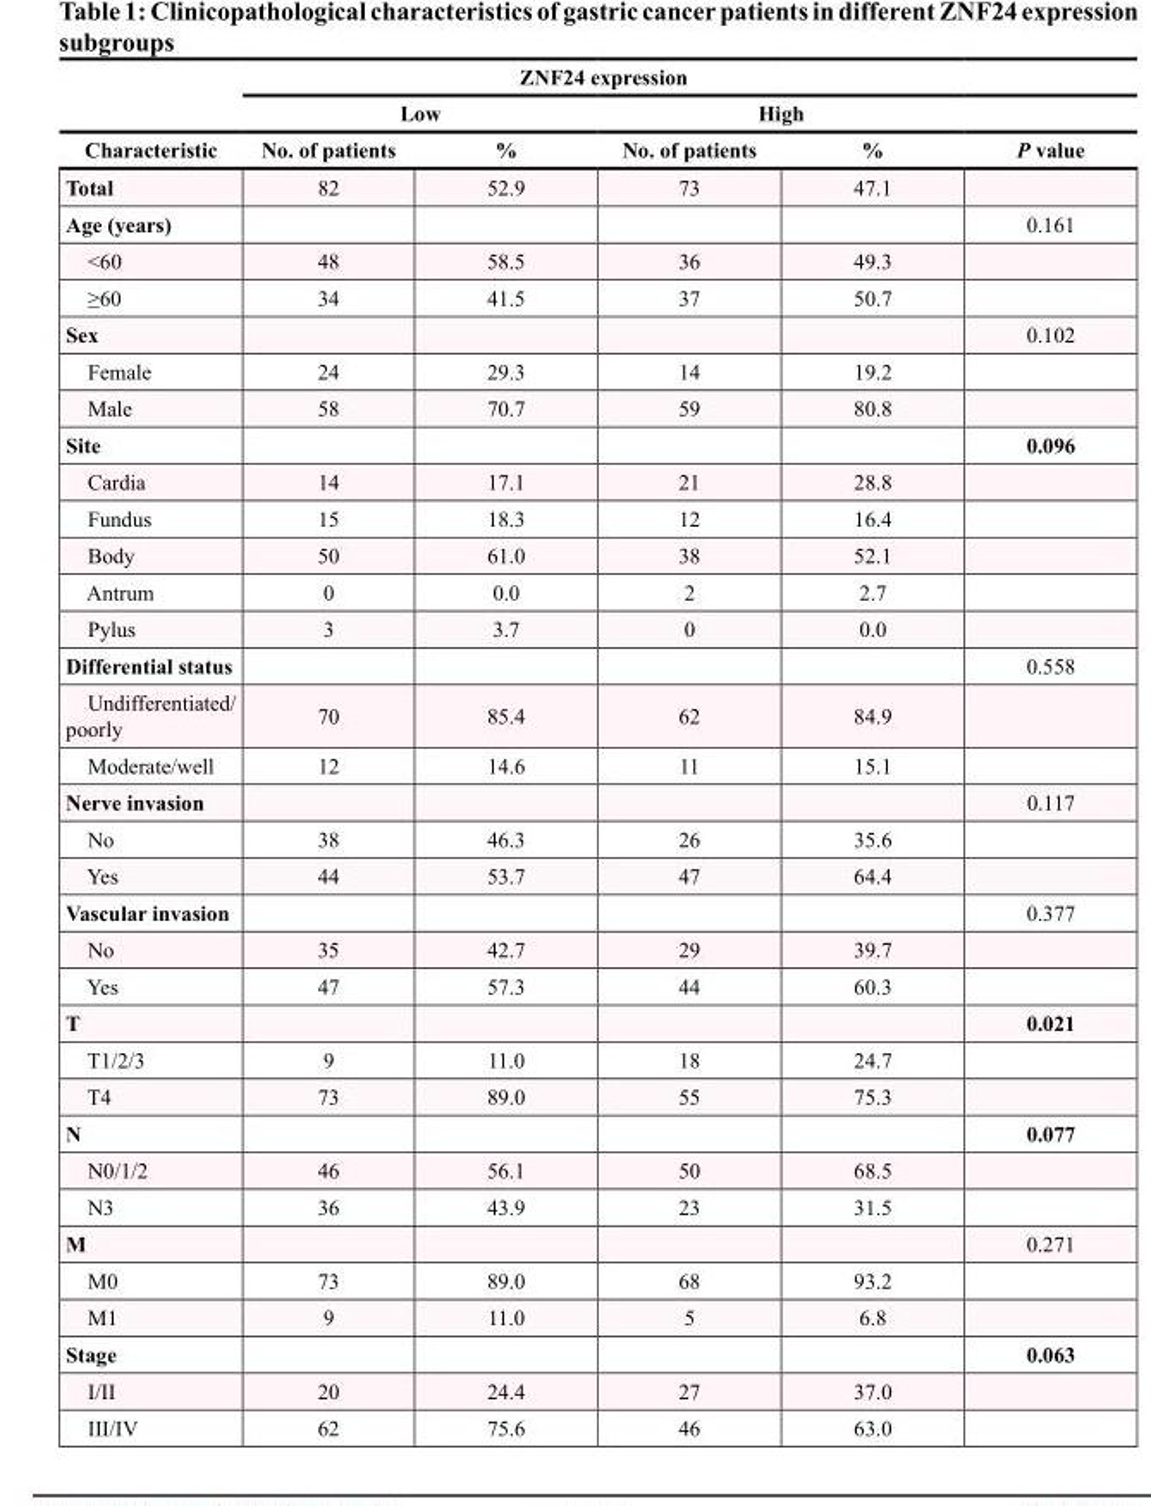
<table><thead><tr><td rowspan="3">Characteristic</td><td colspan="4">ZNF24 expression</td><td rowspan="3">P value</td></tr><tr><td colspan="2">Low</td><td colspan="2">High</td></tr><tr><td>No. of patients</td><td>%</td><td>No. of patients</td><td>%</td></tr></thead><tbody><tr><td>Total</td><td>82</td><td>52.9</td><td>73</td><td>47.1</td><td></td></tr><tr><td>Age (years)</td><td></td><td></td><td></td><td></td><td>0.161</td></tr><tr><td>&lt;60</td><td>48</td><td>58.5</td><td>36</td><td>49.3</td><td></td></tr><tr><td>≥60</td><td>34</td><td>41.5</td><td>37</td><td>50.7</td><td></td></tr><tr><td>Sex</td><td></td><td></td><td></td><td></td><td>0.102</td></tr><tr><td>Female</td><td>24</td><td>29.3</td><td>14</td><td>19.2</td><td></td></tr><tr><td>Male</td><td>58</td><td>70.7</td><td>59</td><td>80.8</td><td></td></tr><tr><td>Site</td><td></td><td></td><td></td><td></td><td>0.096</td></tr><tr><td>Cardia</td><td>14</td><td>17.1</td><td>21</td><td>28.8</td><td></td></tr><tr><td>Fundus</td><td>15</td><td>18.3</td><td>12</td><td>16.4</td><td></td></tr><tr><td>Body</td><td>50</td><td>61.0</td><td>38</td><td>52.1</td><td></td></tr><tr><td>Antrum</td><td>0</td><td>0.0</td><td>2</td><td>2.7</td><td></td></tr><tr><td>Pylus</td><td>3</td><td>3.7</td><td>0</td><td>0.0</td><td></td></tr><tr><td>Differential status</td><td></td><td></td><td></td><td></td><td>0.558</td></tr><tr><td>Undifferentiated/ poorly</td><td>70</td><td>85.4</td><td>62</td><td>84.9</td><td></td></tr><tr><td>Moderate/well</td><td>12</td><td>14.6</td><td>11</td><td>15.1</td><td></td></tr><tr><td>Nerve invasion</td><td></td><td></td><td></td><td></td><td>0.117</td></tr><tr><td>No</td><td>38</td><td>46.3</td><td>26</td><td>35.6</td><td></td></tr><tr><td>Yes</td><td>44</td><td>53.7</td><td>47</td><td>64.4</td><td></td></tr><tr><td>Vascular invasion</td><td></td><td></td><td></td><td></td><td>0.377</td></tr><tr><td>No</td><td>35</td><td>42.7</td><td>29</td><td>39.7</td><td></td></tr><tr><td>Yes</td><td>47</td><td>57.3</td><td>44</td><td>60.3</td><td></td></tr><tr><td>T</td><td></td><td></td><td></td><td></td><td>0.021</td></tr><tr><td>T1/2/3</td><td>9</td><td>11.0</td><td>18</td><td>24.7</td><td></td></tr><tr><td>T4</td><td>73</td><td>89.0</td><td>55</td><td>75.3</td><td></td></tr><tr><td>N</td><td></td><td></td><td></td><td></td><td>0.077</td></tr><tr><td>N0/1/2</td><td>46</td><td>56.1</td><td>50</td><td>68.5</td><td></td></tr><tr><td>N3</td><td>36</td><td>43.9</td><td>23</td><td>31.5</td><td></td></tr><tr><td>M</td><td></td><td></td><td></td><td></td><td>0.271</td></tr><tr><td>M0</td><td>73</td><td>89.0</td><td>68</td><td>93.2</td><td></td></tr><tr><td>M1</td><td>9</td><td>11.0</td><td>5</td><td>6.8</td><td></td></tr><tr><td>Stage</td><td></td><td></td><td></td><td></td><td>0.063</td></tr><tr><td>I/II</td><td>20</td><td>24.4</td><td>27</td><td>37.0</td><td></td></tr><tr><td>III/IV</td><td>62</td><td>75.6</td><td>46</td><td>63.0</td><td></td></tr></tbody></table>